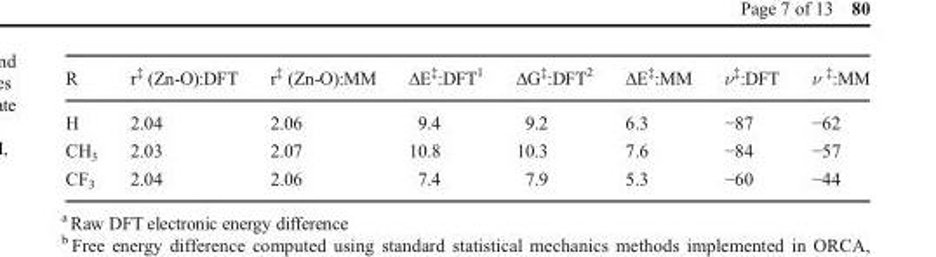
<table><thead><tr><td>R</td><td>r<sup>‡</sup> (Zn-O):DFT</td><td>r<sup>‡</sup> (Zn-O):MM</td><td>ΔE‡:DFT1</td><td>ΔG‡:DFT2</td><td>ΔE‡:MM</td><td>ν<sup>‡</sup>:DFT</td><td>ν <sup>‡</sup>:MM</td></tr></thead><tbody><tr><td>H</td><td>2.04</td><td>2.06</td><td>9.4</td><td>9.2</td><td>6.3</td><td>−87</td><td>−62</td></tr><tr><td>CH<sub>3</sub></td><td>2.03</td><td>2.07</td><td>10.8</td><td>10.3</td><td>7.6</td><td>−84</td><td>−57</td></tr><tr><td>CF<sub>3</sub></td><td>2.04</td><td>2.06</td><td>7.4</td><td>7.9</td><td>5.3</td><td>−60</td><td>−44</td></tr></tbody></table>